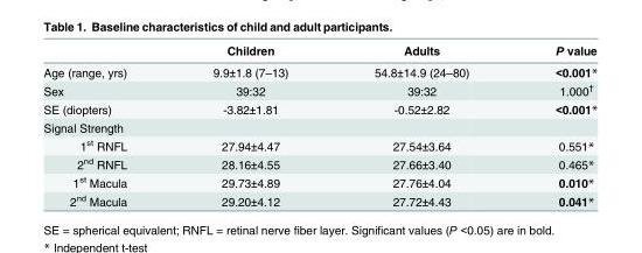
<table><thead><tr><td></td><td>Children</td><td>Adults</td><td>P value</td></tr></thead><tbody><tr><td>Age (range, yrs)</td><td>9.9±1.8 (7–13)</td><td>54.8±14.9 (24–80)</td><td>&lt;0.001*</td></tr><tr><td>Sex</td><td>39:32</td><td>39:32</td><td>1.000<sup>†</sup></td></tr><tr><td>SE (diopters)</td><td>-3.82±1.81</td><td>-0.52±2.82</td><td>&lt;0.001*</td></tr><tr><td colspan="4">Signal Strength</td></tr><tr><td>1<sup>st</sup> RNFL</td><td>27.94±4.47</td><td>27.54±3.64</td><td>0.551*</td></tr><tr><td>2<sup>nd</sup> RNFL</td><td>28.16±4.55</td><td>27.66±3.40</td><td>0.465*</td></tr><tr><td>1<sup>st</sup> Macula</td><td>29.73±4.89</td><td>27.76±4.04</td><td>0.010*</td></tr><tr><td>2<sup>nd</sup> Macula</td><td>29.20±4.12</td><td>27.72±4.43</td><td>0.041*</td></tr></tbody></table>